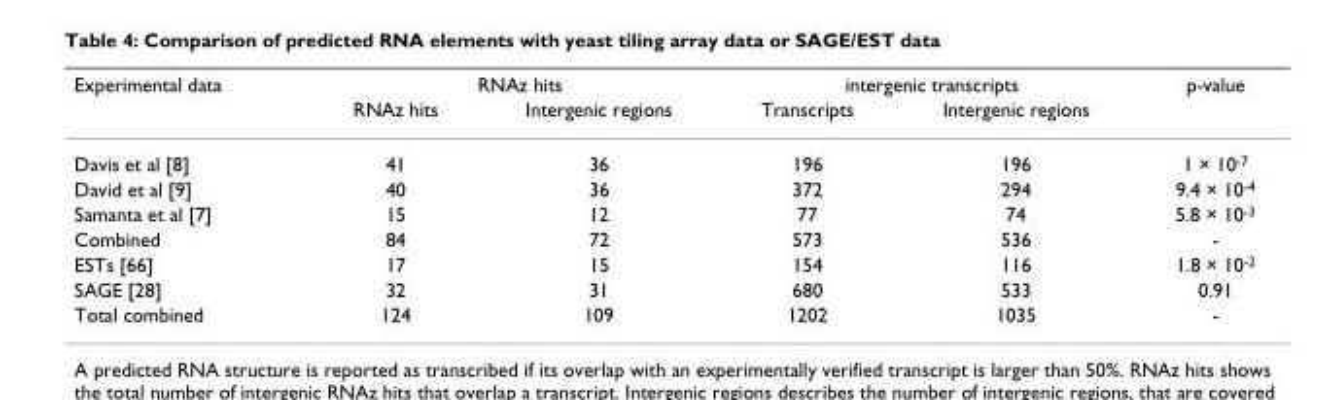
<table><thead><tr><td rowspan="2">Experimental data</td><td colspan="2">RNAz hits</td><td colspan="2">intergenic transcripts</td><td rowspan="2">p-value</td></tr><tr><td>RNAz hits</td><td>Intergenic regions</td><td>Transcripts</td><td>Intergenic regions</td></tr></thead><tbody><tr><td>Davis et al [8]</td><td>41</td><td>36</td><td>196</td><td>196</td><td>1 × 10<sup>-7</sup></td></tr><tr><td>David et al [9]</td><td>40</td><td>36</td><td>372</td><td>294</td><td>9.4 × 10<sup>-4</sup></td></tr><tr><td>Samanta et al [7]</td><td>15</td><td>12</td><td>77</td><td>74</td><td>5.8 × 10<sup>-3</sup></td></tr><tr><td>Combined</td><td>84</td><td>72</td><td>573</td><td>536</td><td>-</td></tr><tr><td>ESTs [66]</td><td>17</td><td>15</td><td>154</td><td>116</td><td>1.8 × 10<sup>-2</sup></td></tr><tr><td>SAGE [28]</td><td>32</td><td>31</td><td>680</td><td>533</td><td>0.91</td></tr><tr><td>Total combined</td><td>124</td><td>109</td><td>1202</td><td>1035</td><td>-</td></tr></tbody></table>